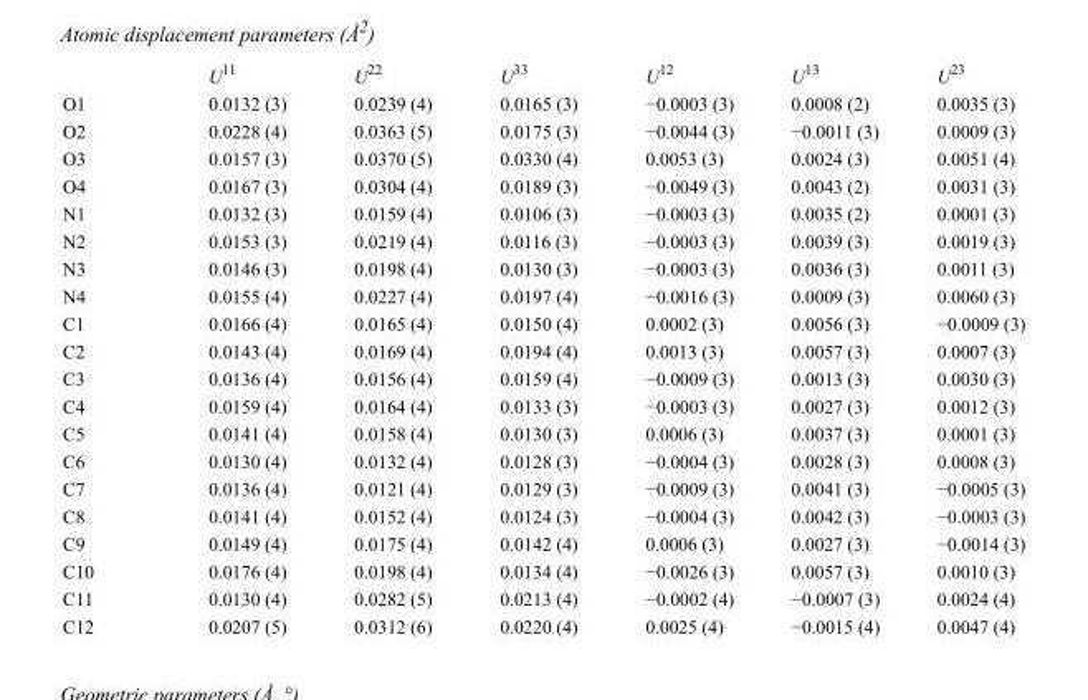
<table><thead><tr><td></td><td>U<sup>11</sup></td><td>U<sup>22</sup></td><td>U<sup>33</sup></td><td>U<sup>12</sup></td><td>U<sup>13</sup></td><td>U<sup>23</sup></td></tr></thead><tbody><tr><td>O1</td><td>0.0132 (3)</td><td>0.0239 (4)</td><td>0.0165 (3)</td><td>−0.0003 (3)</td><td>0.0008 (2)</td><td>0.0035 (3)</td></tr><tr><td>O2</td><td>0.0228 (4)</td><td>0.0363 (5)</td><td>0.0175 (3)</td><td>−0.0044 (3)</td><td>−0.0011 (3)</td><td>0.0009 (3)</td></tr><tr><td>O3</td><td>0.0157 (3)</td><td>0.0370 (5)</td><td>0.0330 (4)</td><td>0.0053 (3)</td><td>0.0024 (3)</td><td>0.0051 (4)</td></tr><tr><td>O4</td><td>0.0167 (3)</td><td>0.0304 (4)</td><td>0.0189 (3)</td><td>−0.0049 (3)</td><td>0.0043 (2)</td><td>0.0031 (3)</td></tr><tr><td>N1</td><td>0.0132 (3)</td><td>0.0159 (4)</td><td>0.0106 (3)</td><td>−0.0003 (3)</td><td>0.0035 (2)</td><td>0.0001 (3)</td></tr><tr><td>N2</td><td>0.0153 (3)</td><td>0.0219 (4)</td><td>0.0116 (3)</td><td>−0.0003 (3)</td><td>0.0039 (3)</td><td>0.0019 (3)</td></tr><tr><td>N3</td><td>0.0146 (3)</td><td>0.0198 (4)</td><td>0.0130 (3)</td><td>−0.0003 (3)</td><td>0.0036 (3)</td><td>0.0011 (3)</td></tr><tr><td>N4</td><td>0.0155 (4)</td><td>0.0227 (4)</td><td>0.0197 (4)</td><td>−0.0016 (3)</td><td>0.0009 (3)</td><td>0.0060 (3)</td></tr><tr><td>C1</td><td>0.0166 (4)</td><td>0.0165 (4)</td><td>0.0150 (4)</td><td>0.0002 (3)</td><td>0.0056 (3)</td><td>−0.0009 (3)</td></tr><tr><td>C2</td><td>0.0143 (4)</td><td>0.0169 (4)</td><td>0.0194 (4)</td><td>0.0013 (3)</td><td>0.0057 (3)</td><td>0.0007 (3)</td></tr><tr><td>C3</td><td>0.0136 (4)</td><td>0.0156 (4)</td><td>0.0159 (4)</td><td>−0.0009 (3)</td><td>0.0013 (3)</td><td>0.0030 (3)</td></tr><tr><td>C4</td><td>0.0159 (4)</td><td>0.0164 (4)</td><td>0.0133 (3)</td><td>−0.0003 (3)</td><td>0.0027 (3)</td><td>0.0012 (3)</td></tr><tr><td>C5</td><td>0.0141 (4)</td><td>0.0158 (4)</td><td>0.0130 (3)</td><td>0.0006 (3)</td><td>0.0037 (3)</td><td>0.0001 (3)</td></tr><tr><td>C6</td><td>0.0130 (4)</td><td>0.0132 (4)</td><td>0.0128 (3)</td><td>−0.0004 (3)</td><td>0.0028 (3)</td><td>0.0008 (3)</td></tr><tr><td>C7</td><td>0.0136 (4)</td><td>0.0121 (4)</td><td>0.0129 (3)</td><td>−0.0009 (3)</td><td>0.0041 (3)</td><td>−0.0005 (3)</td></tr><tr><td>C8</td><td>0.0141 (4)</td><td>0.0152 (4)</td><td>0.0124 (3)</td><td>−0.0004 (3)</td><td>0.0042 (3)</td><td>−0.0003 (3)</td></tr><tr><td>C9</td><td>0.0149 (4)</td><td>0.0175 (4)</td><td>0.0142 (4)</td><td>0.0006 (3)</td><td>0.0027 (3)</td><td>−0.0014 (3)</td></tr><tr><td>C10</td><td>0.0176 (4)</td><td>0.0198 (4)</td><td>0.0134 (4)</td><td>−0.0026 (3)</td><td>0.0057 (3)</td><td>0.0010 (3)</td></tr><tr><td>C11</td><td>0.0130 (4)</td><td>0.0282 (5)</td><td>0.0213 (4)</td><td>−0.0002 (4)</td><td>−0.0007 (3)</td><td>0.0024 (4)</td></tr><tr><td>C12</td><td>0.0207 (5)</td><td>0.0312 (6)</td><td>0.0220 (4)</td><td>0.0025 (4)</td><td>−0.0015 (4)</td><td>0.0047 (4)</td></tr></tbody></table>